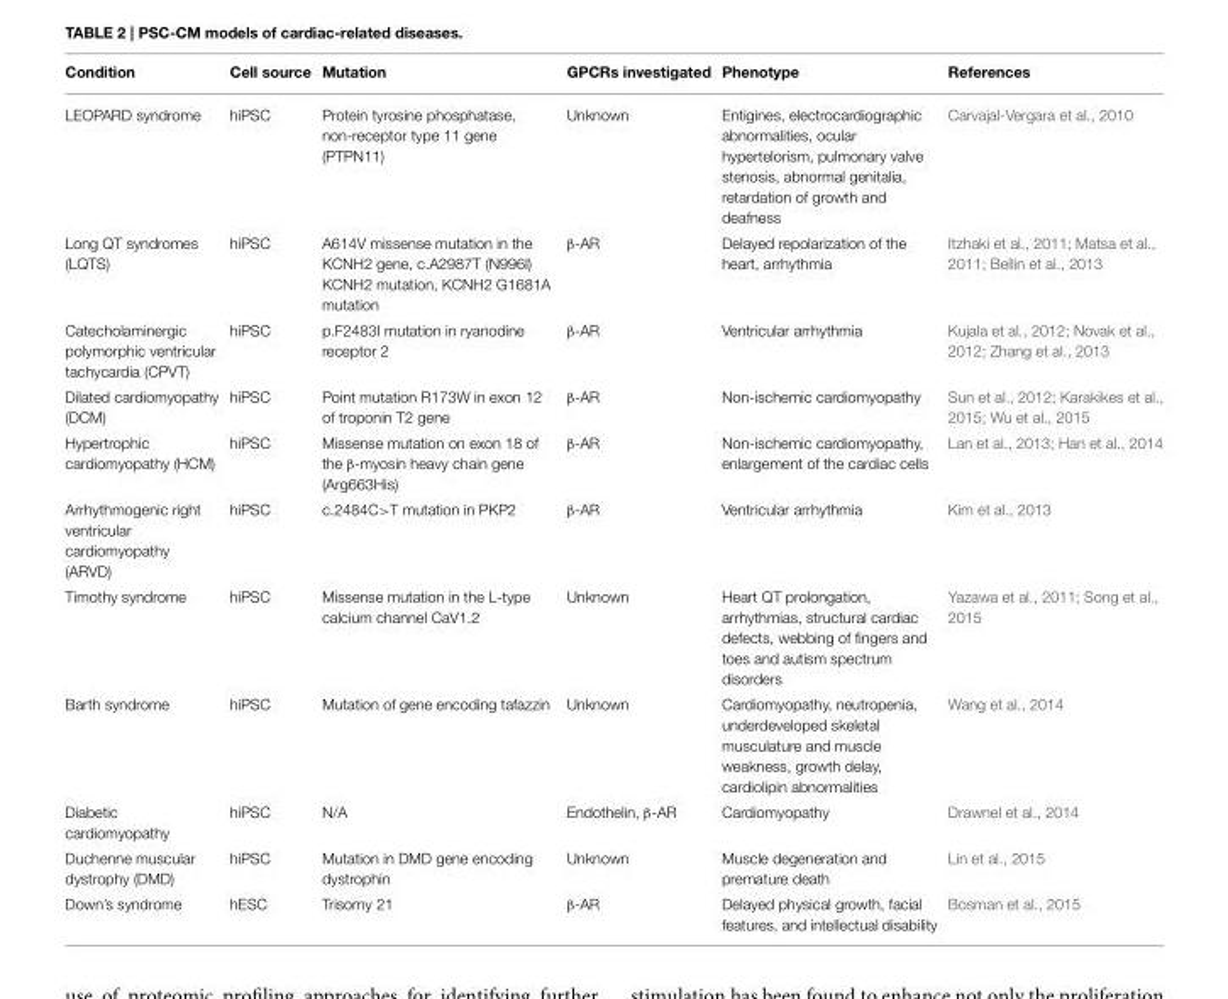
<table><thead><tr><td>Condition</td><td>Cell source</td><td>Mutation</td><td>GPCRs investigated</td><td>Phenotype</td><td>References</td></tr></thead><tbody><tr><td>LEOPARD syndrome</td><td>hiPSC</td><td>Protein tyrosine phosphatase, non-receptor type 11 gene (PTPN11)</td><td>Unknown</td><td>Entigines, electrocardiographic abnormalities, ocular hypertelorism, pulmonary valve stenosis, abnormal genitalia, retardation of growth and deafness</td><td>Carvajal-Vergara et al., 2010</td></tr><tr><td>Long QT syndromes (LQTS)</td><td>hiPSC</td><td>A614V missense mutation in the KCNH2 gene, c.A2987T (N996I) KCNH2 mutation, KCNH2 G1681A mutation</td><td>β-AR</td><td>Delayed repolarization of the heart, arrhythmia</td><td>Itzhaki et al., 2011; Matsa et al., 2011; Bellin et al., 2013</td></tr><tr><td>Catecholaminergic polymorphic ventricular tachycardia (CPVT)</td><td>hiPSC</td><td>p.F2483I mutation in ryanodine receptor 2</td><td>β-AR</td><td>Ventricular arrhythmia</td><td>Kujala et al., 2012; Novak et al., 2012; Zhang et al., 2013</td></tr><tr><td>Dilated cardiomyopathy (DCM)</td><td>hiPSC</td><td>Point mutation R173W in exon 12 of troponin T2 gene</td><td>β-AR</td><td>Non-ischemic cardiomyopathy</td><td>Sun et al., 2012; Karakikes et al., 2015; Wu et al., 2015</td></tr><tr><td>Hypertrophic cardiomyopathy (HCM)</td><td>hiPSC</td><td>Missense mutation on exon 18 of the β-myosin heavy chain gene (Arg663His)</td><td>β-AR</td><td>Non-ischemic cardiomyopathy, enlargement of the cardiac cells</td><td>Lan et al., 2013; Han et al., 2014</td></tr><tr><td>Arrhythmogenic right ventricular cardiomyopathy (ARVD)</td><td>hiPSC</td><td>c.2484C&gt;T mutation in PKP2</td><td>β-AR</td><td>Ventricular arrhythmia</td><td>Kim et al., 2013</td></tr><tr><td>Timothy syndrome</td><td>hiPSC</td><td>Missense mutation in the L-type calcium channel CaV1.2</td><td>Unknown</td><td>Heart QT prolongation, arrhythmias, structural cardiac defects, webbing of fingers and toes and autism spectrum disorders</td><td>Yazawa et al., 2011; Song et al., 2015</td></tr><tr><td>Barth syndrome</td><td>hiPSC</td><td>Mutation of gene encoding tafazzin</td><td>Unknown</td><td>Cardiomyopathy, neutropenia, underdeveloped skeletal musculature and muscle weakness, growth delay, cardiolipin abnormalities</td><td>Wang et al., 2014</td></tr><tr><td>Diabetic cardiomyopathy</td><td>hiPSC</td><td>N/A</td><td>Endothelin, β-AR</td><td>Cardiomyopathy</td><td>Drawnel et al., 2014</td></tr><tr><td>Duchenne muscular dystrophy (DMD)</td><td>hiPSC</td><td>Mutation in DMD gene encoding dystrophin</td><td>Unknown</td><td>Muscle degeneration and premature death</td><td>Lin et al., 2015</td></tr><tr><td>Down’s syndrome</td><td>hESC</td><td>Trisomy 21</td><td>β-AR</td><td>Delayed physical growth, facial features, and intellectual disability</td><td>Bosman et al., 2015</td></tr></tbody></table>